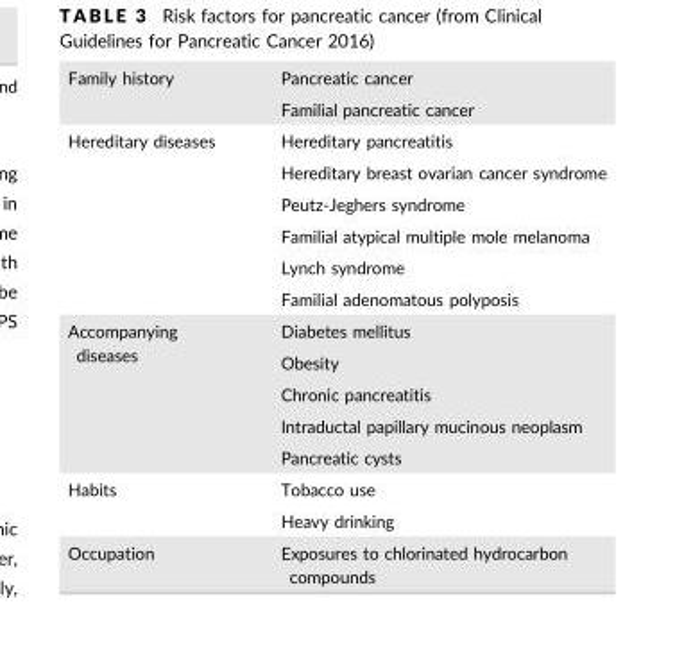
<table><tbody><tr><td rowspan="2">Family history</td><td>Pancreatic cancer</td></tr><tr><td>Familial pancreatic cancer</td></tr><tr><td rowspan="6">Hereditary diseases</td><td>Hereditary pancreatitis</td></tr><tr><td>Hereditary breast ovarian cancer syndrome</td></tr><tr><td>Peutz-Jeghers syndrome</td></tr><tr><td>Familial atypical multiple mole melanoma</td></tr><tr><td>Lynch syndrome</td></tr><tr><td>Familial adenomatous polyposis</td></tr><tr><td rowspan="5">Accompanying diseases</td><td>Diabetes mellitus</td></tr><tr><td>Obesity</td></tr><tr><td>Chronic pancreatitis</td></tr><tr><td>Intraductal papillary mucinous neoplasm</td></tr><tr><td>Pancreatic cysts</td></tr><tr><td rowspan="2">Habits</td><td>Tobacco use</td></tr><tr><td>Heavy drinking</td></tr><tr><td>Occupation</td><td>Exposures to chlorinated hydrocarbon compounds</td></tr></tbody></table>